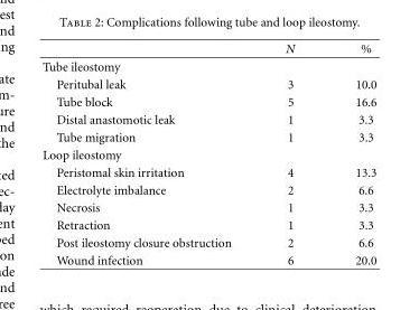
<table><thead><tr><td></td><td>N</td><td>%</td></tr></thead><tbody><tr><td colspan="3">Tube ileostomy</td></tr><tr><td>Peritubal leak</td><td>3</td><td>10.0</td></tr><tr><td>Tube block</td><td>5</td><td>16.6</td></tr><tr><td>Distal anastomotic leak</td><td>1</td><td>3.3</td></tr><tr><td>Tube migration</td><td>1</td><td>3.3</td></tr><tr><td colspan="3">Loop ileostomy</td></tr><tr><td>Peristomal skin irritation</td><td>4</td><td>13.3</td></tr><tr><td>Electrolyte imbalance</td><td>2</td><td>6.6</td></tr><tr><td>Necrosis</td><td>1</td><td>3.3</td></tr><tr><td>Retraction</td><td>1</td><td>3.3</td></tr><tr><td>Post ileostomy closure obstruction</td><td>2</td><td>6.6</td></tr><tr><td>Wound infection</td><td>6</td><td>20.0</td></tr></tbody></table>